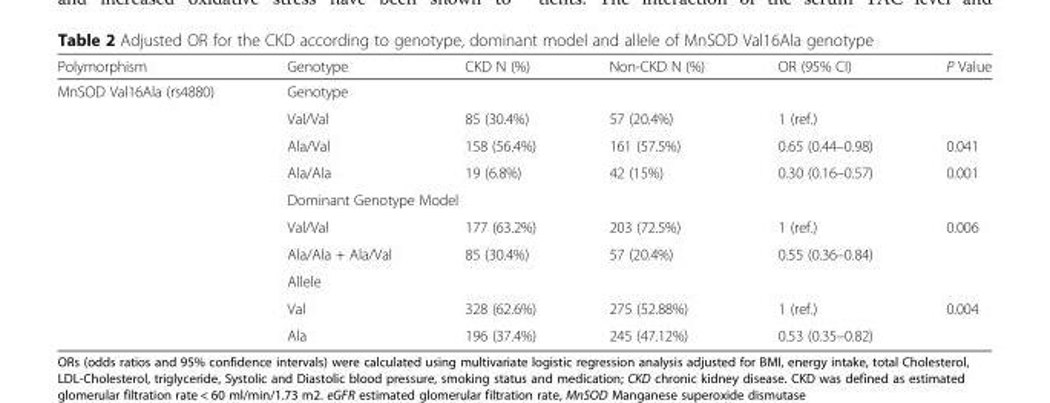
<table><thead><tr><td>Polymorphism</td><td>Genotype</td><td>CKD N (%)</td><td>Non-CKD N (%)</td><td>OR (95% CI)</td><td>P Value</td></tr></thead><tbody><tr><td rowspan="10">MnSOD Val16Ala (rs4880)</td><td colspan="5">Genotype</td></tr><tr><td>Val/Val</td><td>85 (30.4%)</td><td>57 (20.4%)</td><td>1 (ref.)</td><td></td></tr><tr><td>Ala/Val</td><td>158 (56.4%)</td><td>161 (57.5%)</td><td>0.65 (0.44–0.98)</td><td>0.041</td></tr><tr><td>Ala/Ala</td><td>19 (6.8%)</td><td>42 (15%)</td><td>0.30 (0.16–0.57)</td><td>0.001</td></tr><tr><td colspan="5">Dominant Genotype Model</td></tr><tr><td>Val/Val</td><td>177 (63.2%)</td><td>203 (72.5%)</td><td>1 (ref.)</td><td rowspan="2">0.006</td></tr><tr><td>Ala/Ala + Ala/Val</td><td>85 (30.4%)</td><td>57 (20.4%)</td><td>0.55 (0.36–0.84)</td></tr><tr><td colspan="5">Allele</td></tr><tr><td>Val</td><td>328 (62.6%)</td><td>275 (52.88%)</td><td>1 (ref.)</td><td rowspan="2">0.004</td></tr><tr><td>Ala</td><td>196 (37.4%)</td><td>245 (47.12%)</td><td>0.53 (0.35–0.82)</td></tr></tbody></table>